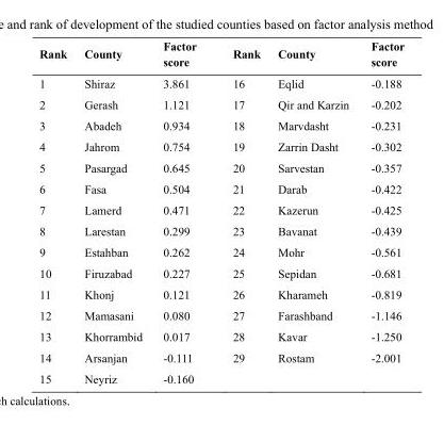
<table><thead><tr><td>Rank</td><td>County</td><td>Factor score</td><td>Rank</td><td>County</td><td>Factor score</td></tr></thead><tbody><tr><td>1</td><td>Shiraz</td><td>3.861</td><td>16</td><td>Eqlid</td><td>-0.188</td></tr><tr><td>2</td><td>Gerash</td><td>1.121</td><td>17</td><td>Qir and Karzin</td><td>-0.202</td></tr><tr><td>3</td><td>Abadeh</td><td>0.934</td><td>18</td><td>Marvdasht</td><td>-0.231</td></tr><tr><td>4</td><td>Jahrom</td><td>0.754</td><td>19</td><td>Zarrin Dasht</td><td>-0.302</td></tr><tr><td>5</td><td>Pasargad</td><td>0.645</td><td>20</td><td>Sarvestan</td><td>-0.357</td></tr><tr><td>6</td><td>Fasa</td><td>0.504</td><td>21</td><td>Darab</td><td>-0.422</td></tr><tr><td>7</td><td>Lamerd</td><td>0.471</td><td>22</td><td>Kazerun</td><td>-0.425</td></tr><tr><td>8</td><td>Larestan</td><td>0.299</td><td>23</td><td>Bavanat</td><td>-0.439</td></tr><tr><td>9</td><td>Estahban</td><td>0.262</td><td>24</td><td>Mohr</td><td>-0.561</td></tr><tr><td>10</td><td>Firuzabad</td><td>0.227</td><td>25</td><td>Sepidan</td><td>-0.681</td></tr><tr><td>11</td><td>Khonj</td><td>0.121</td><td>26</td><td>Kharameh</td><td>-0.819</td></tr><tr><td>12</td><td>Mamasani</td><td>0.080</td><td>27</td><td>Farashband</td><td>-1.146</td></tr><tr><td>13</td><td>Khorrambid</td><td>0.017</td><td>28</td><td>Kavar</td><td>-1.250</td></tr><tr><td>14</td><td>Arsanjan</td><td>-0.111</td><td>29</td><td>Rostam</td><td>-2.001</td></tr><tr><td>15</td><td>Neyriz</td><td>-0.160</td><td></td><td></td><td></td></tr></tbody></table>